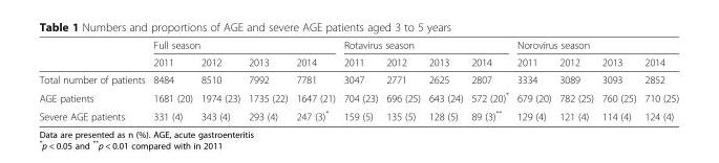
<table><thead><tr><td rowspan="2"></td><td colspan="4">Full season</td><td colspan="4">Rotavirus season</td><td colspan="4">Norovirus season</td></tr><tr><td>2011</td><td>2012</td><td>2013</td><td>2014</td><td>2011</td><td>2012</td><td>2013</td><td>2014</td><td>2011</td><td>2012</td><td>2013</td><td>2014</td></tr></thead><tbody><tr><td>Total number of patients</td><td>8484</td><td>8510</td><td>7992</td><td>7781</td><td>3047</td><td>2771</td><td>2625</td><td>2807</td><td>3334</td><td>3089</td><td>3093</td><td>2852</td></tr><tr><td>AGE patients</td><td>1681 (20)</td><td>1974 (23)</td><td>1735 (22)</td><td>1647 (21)</td><td>704 (23)</td><td>696 (25)</td><td>643 (24)</td><td>572 (20)*</td><td>679 (20)</td><td>782 (25)</td><td>760 (25)</td><td>710 (25)</td></tr><tr><td>Severe AGE patients</td><td>331 (4)</td><td>343 (4)</td><td>293 (4)</td><td>247 (3)*</td><td>159 (5)</td><td>135 (5)</td><td>128 (5)</td><td>89 (3)**</td><td>129 (4)</td><td>121 (4)</td><td>114 (4)</td><td>124 (4)</td></tr></tbody></table>